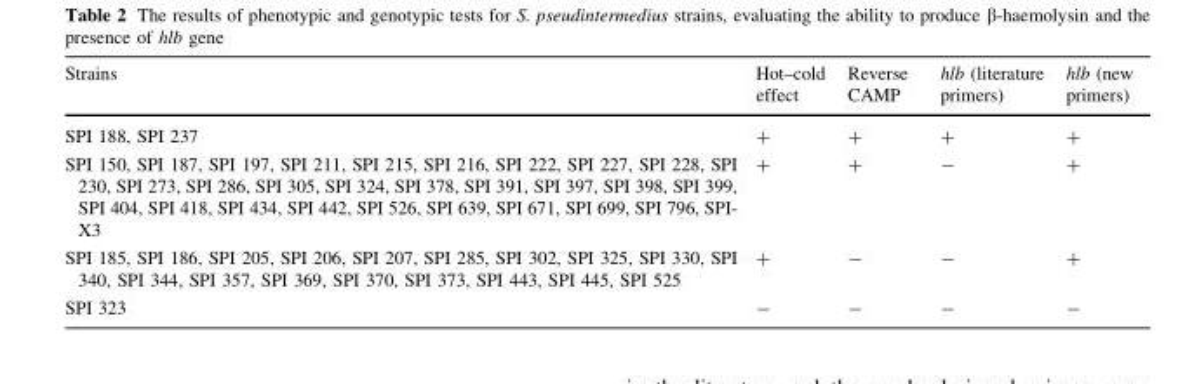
<table><thead><tr><td>Strains</td><td>Hot–cold effect</td><td>Reverse CAMP</td><td>hlb (literature primers)</td><td>hlb (new primers)</td></tr></thead><tbody><tr><td>SPI 188, SPI 237</td><td>+</td><td>+</td><td>+</td><td>+</td></tr><tr><td>SPI 150, SPI 187, SPI 197, SPI 211, SPI 215, SPI 216, SPI 222, SPI 227, SPI 228, SPI 230, SPI 273, SPI 286, SPI 305, SPI 324, SPI 378, SPI 391, SPI 397, SPI 398, SPI 399, SPI 404, SPI 418, SPI 434, SPI 442, SPI 526, SPI 639, SPI 671, SPI 699, SPI 796, SPI- X3</td><td>+</td><td>+</td><td>-</td><td>+</td></tr><tr><td>SPI 185, SPI 186, SPI 205, SPI 206, SPI 207, SPI 285, SPI 302, SPI 325, SPI 330, SPI 340, SPI 344, SPI 357, SPI 369, SPI 370, SPI 373, SPI 443, SPI 445, SPI 525</td><td>+</td><td>-</td><td>-</td><td>+</td></tr><tr><td>SPI 323</td><td>-</td><td>-</td><td>-</td><td>-</td></tr></tbody></table>